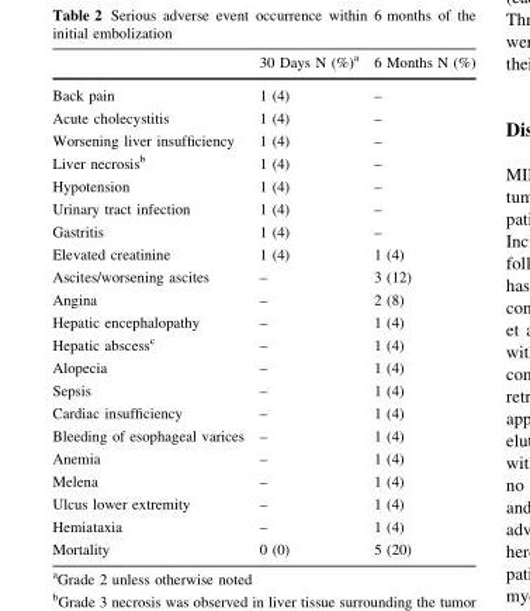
<table><thead><tr><td></td><td>30 Days N (%)<sup>a</sup></td><td>6 Months N (%)</td></tr></thead><tbody><tr><td>Back pain</td><td>1 (4)</td><td>–</td></tr><tr><td>Acute cholecystitis</td><td>1 (4)</td><td>–</td></tr><tr><td>Worsening liver insufficiency</td><td>1 (4)</td><td>–</td></tr><tr><td>Liver necrosis<sup>b</sup></td><td>1 (4)</td><td>–</td></tr><tr><td>Hypotension</td><td>1 (4)</td><td>–</td></tr><tr><td>Urinary tract infection</td><td>1 (4)</td><td>–</td></tr><tr><td>Gastritis</td><td>1 (4)</td><td>–</td></tr><tr><td>Elevated creatinine</td><td>1 (4)</td><td>1 (4)</td></tr><tr><td>Ascites/worsening ascites</td><td>–</td><td>3 (12)</td></tr><tr><td>Angina</td><td>–</td><td>2 (8)</td></tr><tr><td>Hepatic encephalopathy</td><td>–</td><td>1 (4)</td></tr><tr><td>Hepatic abscess<sup>c</sup></td><td>–</td><td>1 (4)</td></tr><tr><td>Alopecia</td><td>–</td><td>1 (4)</td></tr><tr><td>Sepsis</td><td>–</td><td>1 (4)</td></tr><tr><td>Cardiac insufficiency</td><td>–</td><td>1 (4)</td></tr><tr><td>Bleeding of esophageal varices</td><td>–</td><td>1 (4)</td></tr><tr><td>Anemia</td><td>–</td><td>1 (4)</td></tr><tr><td>Melena</td><td>–</td><td>1 (4)</td></tr><tr><td>Ulcus lower extremity</td><td>–</td><td>1 (4)</td></tr><tr><td>Hemiataxia</td><td>–</td><td>1 (4)</td></tr><tr><td>Mortality</td><td>0 (0)</td><td>5 (20)</td></tr></tbody></table>